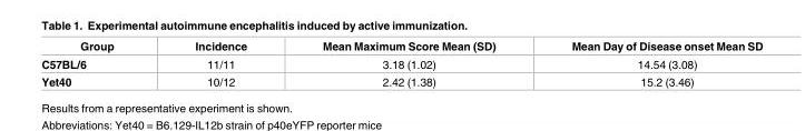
<table><thead><tr><td>Group</td><td>Incidence</td><td>Mean Maximum Score Mean (SD)</td><td>Mean Day of Disease onset Mean SD</td></tr></thead><tbody><tr><td>C57BL/6</td><td>11/11</td><td>3.18 (1.02)</td><td>14.54 (3.08)</td></tr><tr><td>Yet40</td><td>10/12</td><td>2.42 (1.38)</td><td>15.2 (3.46)</td></tr></tbody></table>